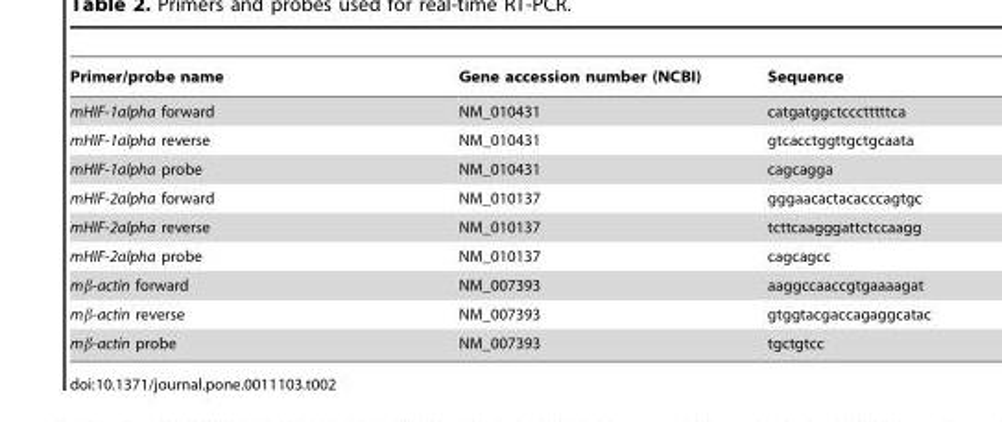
<table><thead><tr><td>Primer/probe name</td><td>Gene accession number (NCBI)</td><td>Sequence</td></tr></thead><tbody><tr><td>mHIF-1alpha forward</td><td>NM_010431</td><td>catgatggctccctttttca</td></tr><tr><td>mHIF-1alpha reverse</td><td>NM_010431</td><td>gtcacctggttgctgcaata</td></tr><tr><td>mHIF-1alpha probe</td><td>NM_010431</td><td>cagcagga</td></tr><tr><td>mHIF-2alpha forward</td><td>NM_010137</td><td>gggaacactacacccagtgc</td></tr><tr><td>mHIF-2alpha reverse</td><td>NM_010137</td><td>tcttcaagggattctccaagg</td></tr><tr><td>mHIF-2alpha probe</td><td>NM_010137</td><td>cagcagcc</td></tr><tr><td>mβ-actin forward</td><td>NM_007393</td><td>aaggccaaccgtgaaaagat</td></tr><tr><td>mβ-actin reverse</td><td>NM_007393</td><td>gtggtacgaccagaggcatac</td></tr><tr><td>mβ-actin probe</td><td>NM_007393</td><td>tgctgtcc</td></tr></tbody></table>